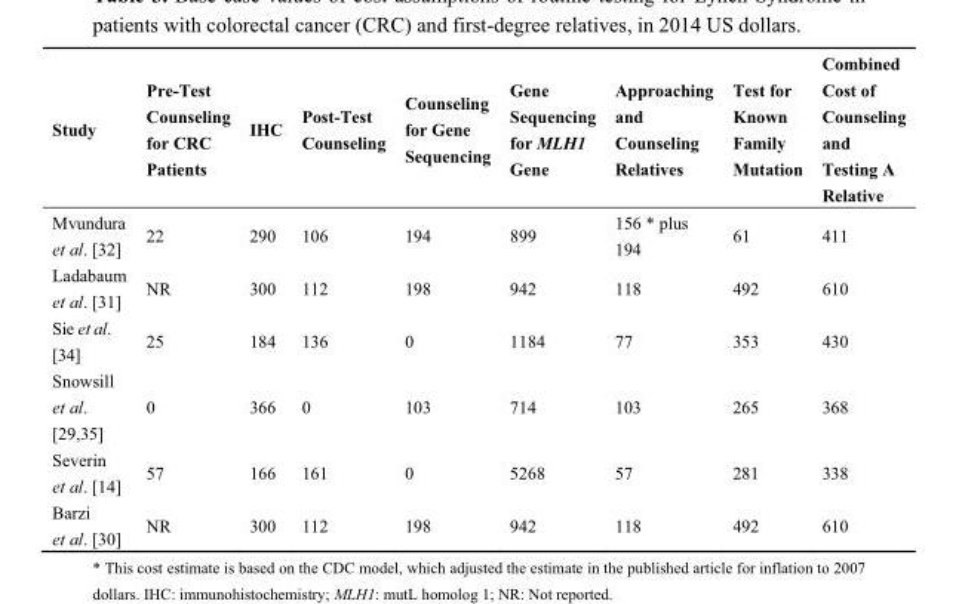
<table><thead><tr><td>Study</td><td>Pre-Test Counseling for CRC Patients</td><td>IHC</td><td>Post-Test Counseling</td><td>Counseling for Gene Sequencing</td><td>Gene Sequencing for MLH1 Gene</td><td>Approaching and Counseling Relatives</td><td>Test for Known Family Mutation</td><td>Combined Cost of Counseling and Testing A Relative</td></tr></thead><tbody><tr><td>Mvundura et al. [32]</td><td>22</td><td>290</td><td>106</td><td>194</td><td>899</td><td>156 * plus 194</td><td>61</td><td>411</td></tr><tr><td>Ladabaum et al. [31]</td><td>NR</td><td>300</td><td>112</td><td>198</td><td>942</td><td>118</td><td>492</td><td>610</td></tr><tr><td>Sie et al. [34]</td><td>25</td><td>184</td><td>136</td><td>0</td><td>1184</td><td>77</td><td>353</td><td>430</td></tr><tr><td>Snowsill et al. [29,35]</td><td>0</td><td>366</td><td>0</td><td>103</td><td>714</td><td>103</td><td>265</td><td>368</td></tr><tr><td>Severin et al. [14]</td><td>57</td><td>166</td><td>161</td><td>0</td><td>5268</td><td>57</td><td>281</td><td>338</td></tr><tr><td>Barzi et al. [30]</td><td>NR</td><td>300</td><td>112</td><td>198</td><td>942</td><td>118</td><td>492</td><td>610</td></tr></tbody></table>